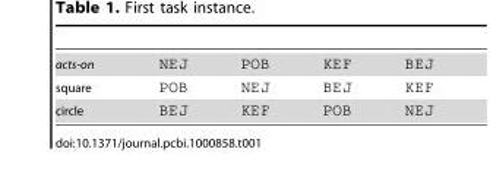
<table><tbody><tr><td>acts-on</td><td>NEJ</td><td>POB</td><td>KEF</td><td>BEJ</td></tr><tr><td>square</td><td>POB</td><td>NEJ</td><td>BEJ</td><td>KEF</td></tr><tr><td>circle</td><td>BEJ</td><td>KEF</td><td>POB</td><td>NEJ</td></tr></tbody></table>